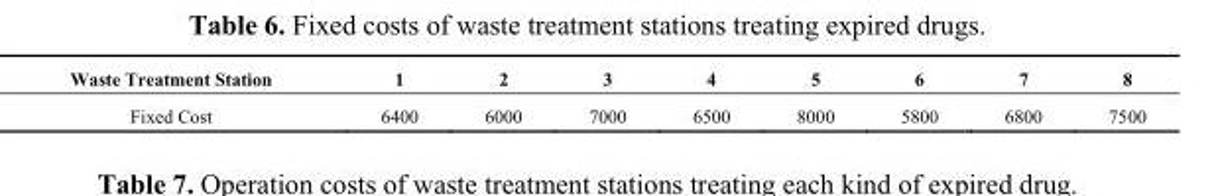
<table><thead><tr><td>Waste Treatment Station</td><td>1</td><td>2</td><td>3</td><td>4</td><td>5</td><td>6</td><td>7</td><td>8</td></tr></thead><tbody><tr><td>Fixed Cost</td><td>6400</td><td>6000</td><td>7000</td><td>6500</td><td>8000</td><td>5800</td><td>6800</td><td>7500</td></tr></tbody></table>